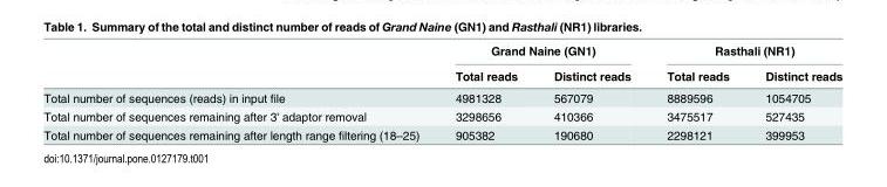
<table><thead><tr><td rowspan="2"></td><td colspan="2">Grand Naine (GN1)</td><td colspan="2">Rasthali (NR1)</td></tr><tr><td>Total reads</td><td>Distinct reads</td><td>Total reads</td><td>Distinct reads</td></tr></thead><tbody><tr><td>Total number of sequences (reads) in input file</td><td>4981328</td><td>567079</td><td>8889596</td><td>1054705</td></tr><tr><td>Total number of sequences remaining after 3&#x27; adaptor removal</td><td>3298656</td><td>410366</td><td>3475517</td><td>527435</td></tr><tr><td>Total number of sequences remaining after length range filtering (18–25)</td><td>905382</td><td>190680</td><td>2298121</td><td>399953</td></tr></tbody></table>